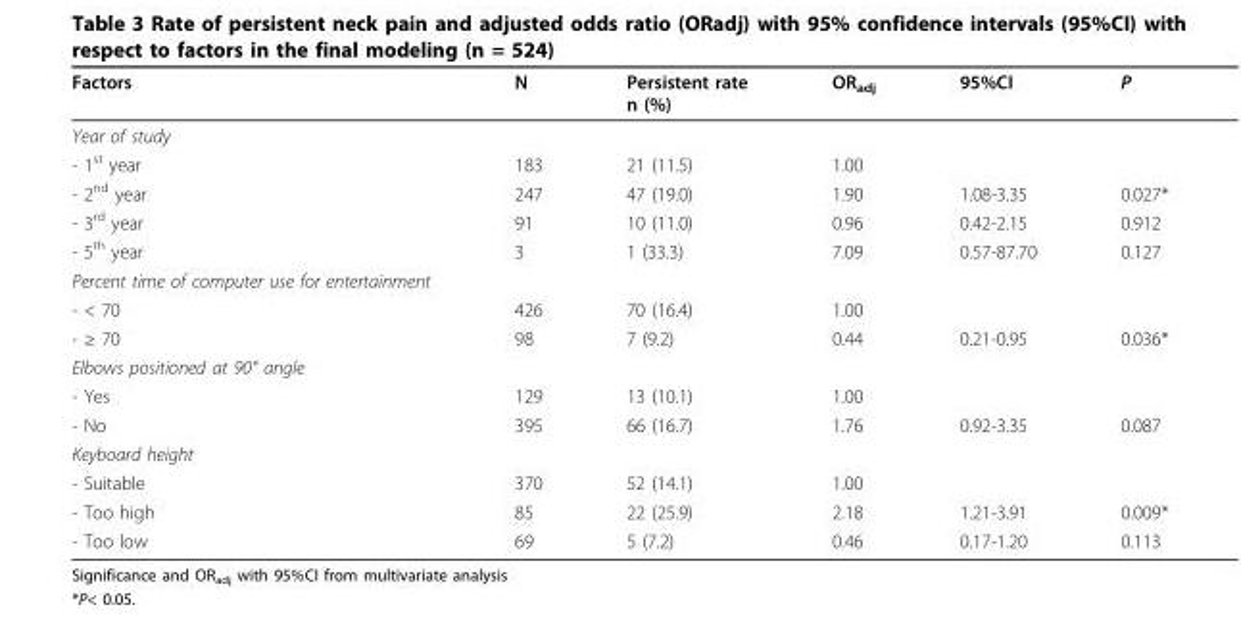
<table><thead><tr><td>Factors</td><td>N</td><td>Persistent rate n (%)</td><td>OR<sub>adj</sub></td><td>95%CI</td><td>P</td></tr></thead><tbody><tr><td colspan="6">Year of study</td></tr><tr><td>- 1<sup>st</sup> year</td><td>183</td><td>21 (11.5)</td><td>1.00</td><td></td><td></td></tr><tr><td>- 2<sup>nd</sup> year</td><td>247</td><td>47 (19.0)</td><td>1.90</td><td>1.08-3.35</td><td>0.027*</td></tr><tr><td>- 3<sup>rd</sup> year</td><td>91</td><td>10 (11.0)</td><td>0.96</td><td>0.42-2.15</td><td>0.912</td></tr><tr><td>- 5<sup>th</sup> year</td><td>3</td><td>1 (33.3)</td><td>7.09</td><td>0.57-87.70</td><td>0.127</td></tr><tr><td colspan="6">Percent time of computer use for entertainment</td></tr><tr><td>- &lt; 70</td><td>426</td><td>70 (16.4)</td><td>1.00</td><td></td><td></td></tr><tr><td>- ≥ 70</td><td>98</td><td>7 (9.2)</td><td>0.44</td><td>0.21-0.95</td><td>0.036*</td></tr><tr><td colspan="6">Elbows positioned at 90° angle</td></tr><tr><td>- Yes</td><td>129</td><td>13 (10.1)</td><td>1.00</td><td></td><td></td></tr><tr><td>- No</td><td>395</td><td>66 (16.7)</td><td>1.76</td><td>0.92-3.35</td><td>0.087</td></tr><tr><td colspan="6">Keyboard height</td></tr><tr><td>- Suitable</td><td>370</td><td>52 (14.1)</td><td>1.00</td><td></td><td></td></tr><tr><td>- Too high</td><td>85</td><td>22 (25.9)</td><td>2.18</td><td>1.21-3.91</td><td>0.009*</td></tr><tr><td>- Too low</td><td>69</td><td>5 (7.2)</td><td>0.46</td><td>0.17-1.20</td><td>0.113</td></tr></tbody></table>